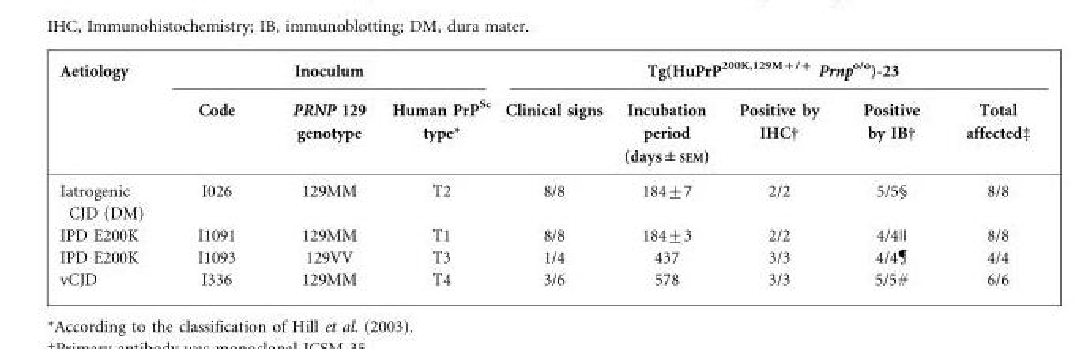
<table><thead><tr><td rowspan="2">Aetiology</td><td colspan="3">Inoculum</td><td colspan="5">Tg(HuPrP<sup>200K,129M+/+</sup> Prnp<sup>o/o</sup>)-23</td></tr><tr><td>Code</td><td>PRNP 129 genotype</td><td>Human PrP<sup>Sc</sup> type*</td><td>Clinical signs</td><td>Incubation period (days±SEM)</td><td>Positive by IHC†</td><td>Positive by IB†</td><td>Total affected‡</td></tr></thead><tbody><tr><td>Iatrogenic CJD (DM)</td><td>I026</td><td>129MM</td><td>T2</td><td>8/8</td><td>184±7</td><td>2/2</td><td>5/5§</td><td>8/8</td></tr><tr><td>IPD E200K</td><td>I1091</td><td>129MM</td><td>T1</td><td>8/8</td><td>184±3</td><td>2/2</td><td>4/4||</td><td>8/8</td></tr><tr><td>IPD E200K</td><td>I1093</td><td>129VV</td><td>T3</td><td>1/4</td><td>437</td><td>3/3</td><td>4/4</td><td>4/4</td></tr><tr><td>vCJD</td><td>I336</td><td>129MM</td><td>T4</td><td>3/6</td><td>578</td><td>3/3</td><td>5/5#</td><td>6/6</td></tr></tbody></table>